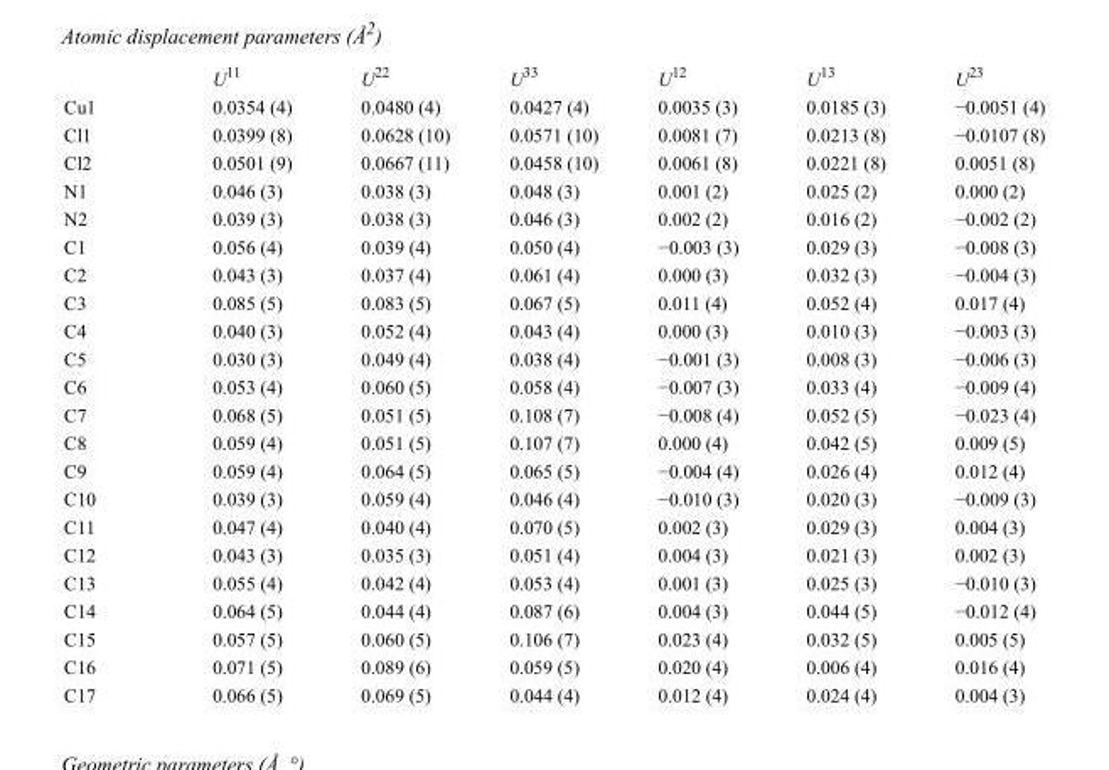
<table><thead><tr><td></td><td>U<sup>11</sup></td><td>U<sup>22</sup></td><td>U<sup>33</sup></td><td>U<sup>12</sup></td><td>U<sup>13</sup></td><td>U<sup>23</sup></td></tr></thead><tbody><tr><td>Cu1</td><td>0.0354 (4)</td><td>0.0480 (4)</td><td>0.0427 (4)</td><td>0.0035 (3)</td><td>0.0185 (3)</td><td>−0.0051 (4)</td></tr><tr><td>Cl1</td><td>0.0399 (8)</td><td>0.0628 (10)</td><td>0.0571 (10)</td><td>0.0081 (7)</td><td>0.0213 (8)</td><td>−0.0107 (8)</td></tr><tr><td>Cl2</td><td>0.0501 (9)</td><td>0.0667 (11)</td><td>0.0458 (10)</td><td>0.0061 (8)</td><td>0.0221 (8)</td><td>0.0051 (8)</td></tr><tr><td>N1</td><td>0.046 (3)</td><td>0.038 (3)</td><td>0.048 (3)</td><td>0.001 (2)</td><td>0.025 (2)</td><td>0.000 (2)</td></tr><tr><td>N2</td><td>0.039 (3)</td><td>0.038 (3)</td><td>0.046 (3)</td><td>0.002 (2)</td><td>0.016 (2)</td><td>−0.002 (2)</td></tr><tr><td>C1</td><td>0.056 (4)</td><td>0.039 (4)</td><td>0.050 (4)</td><td>−0.003 (3)</td><td>0.029 (3)</td><td>−0.008 (3)</td></tr><tr><td>C2</td><td>0.043 (3)</td><td>0.037 (4)</td><td>0.061 (4)</td><td>0.000 (3)</td><td>0.032 (3)</td><td>−0.004 (3)</td></tr><tr><td>C3</td><td>0.085 (5)</td><td>0.083 (5)</td><td>0.067 (5)</td><td>0.011 (4)</td><td>0.052 (4)</td><td>0.017 (4)</td></tr><tr><td>C4</td><td>0.040 (3)</td><td>0.052 (4)</td><td>0.043 (4)</td><td>0.000 (3)</td><td>0.010 (3)</td><td>−0.003 (3)</td></tr><tr><td>C5</td><td>0.030 (3)</td><td>0.049 (4)</td><td>0.038 (4)</td><td>−0.001 (3)</td><td>0.008 (3)</td><td>−0.006 (3)</td></tr><tr><td>C6</td><td>0.053 (4)</td><td>0.060 (5)</td><td>0.058 (4)</td><td>−0.007 (3)</td><td>0.033 (4)</td><td>−0.009 (4)</td></tr><tr><td>C7</td><td>0.068 (5)</td><td>0.051 (5)</td><td>0.108 (7)</td><td>−0.008 (4)</td><td>0.052 (5)</td><td>−0.023 (4)</td></tr><tr><td>C8</td><td>0.059 (4)</td><td>0.051 (5)</td><td>0.107 (7)</td><td>0.000 (4)</td><td>0.042 (5)</td><td>0.009 (5)</td></tr><tr><td>C9</td><td>0.059 (4)</td><td>0.064 (5)</td><td>0.065 (5)</td><td>−0.004 (4)</td><td>0.026 (4)</td><td>0.012 (4)</td></tr><tr><td>C10</td><td>0.039 (3)</td><td>0.059 (4)</td><td>0.046 (4)</td><td>−0.010 (3)</td><td>0.020 (3)</td><td>−0.009 (3)</td></tr><tr><td>C11</td><td>0.047 (4)</td><td>0.040 (4)</td><td>0.070 (5)</td><td>0.002 (3)</td><td>0.029 (3)</td><td>0.004 (3)</td></tr><tr><td>C12</td><td>0.043 (3)</td><td>0.035 (3)</td><td>0.051 (4)</td><td>0.004 (3)</td><td>0.021 (3)</td><td>0.002 (3)</td></tr><tr><td>C13</td><td>0.055 (4)</td><td>0.042 (4)</td><td>0.053 (4)</td><td>0.001 (3)</td><td>0.025 (3)</td><td>−0.010 (3)</td></tr><tr><td>C14</td><td>0.064 (5)</td><td>0.044 (4)</td><td>0.087 (6)</td><td>0.004 (3)</td><td>0.044 (5)</td><td>−0.012 (4)</td></tr><tr><td>C15</td><td>0.057 (5)</td><td>0.060 (5)</td><td>0.106 (7)</td><td>0.023 (4)</td><td>0.032 (5)</td><td>0.005 (5)</td></tr><tr><td>C16</td><td>0.071 (5)</td><td>0.089 (6)</td><td>0.059 (5)</td><td>0.020 (4)</td><td>0.006 (4)</td><td>0.016 (4)</td></tr><tr><td>C17</td><td>0.066 (5)</td><td>0.069 (5)</td><td>0.044 (4)</td><td>0.012 (4)</td><td>0.024 (4)</td><td>0.004 (3)</td></tr></tbody></table>